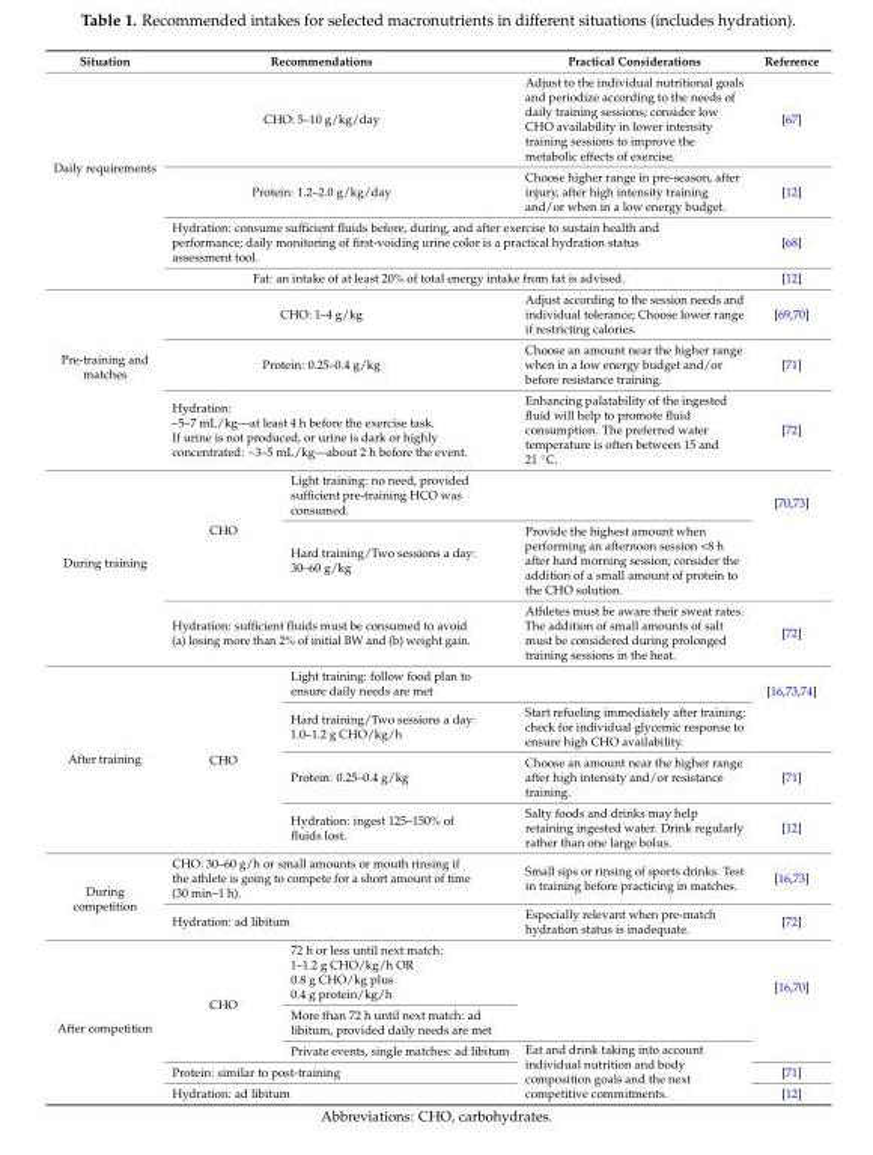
<table><thead><tr><td>Situation</td><td colspan="2">Recommendations</td><td>Practical Considerations</td><td>Reference</td></tr></thead><tbody><tr><td rowspan="4">Daily requirements</td><td colspan="2">CHO: 5–10 g/kg/day</td><td>Adjust to the individual nutritional goals and periodize according to the needs of daily training sessions; consider low CHO availability in lower intensity training sessions to improve the metabolic effects of exercise.</td><td>[67]</td></tr><tr><td colspan="2">Protein: 1.2–2.0 g/kg/day</td><td>Choose higher range in pre-season, after injury, after high intensity training and/or when in a low energy budget.</td><td>[12]</td></tr><tr><td colspan="3">Hydration: consume sufficient fluids before, during, and after exercise to sustain health and performance; daily monitoring of first-voiding urine color is a practical hydration status assessment tool.</td><td>[68]</td></tr><tr><td colspan="3">Fat: an intake of at least 20% of total energy intake from fat is advised.</td><td>[12]</td></tr><tr><td rowspan="3">Pre-training and matches</td><td colspan="2">CHO: 1–4 g/kg</td><td>Adjust according to the session needs and individual tolerance; Choose lower range if restricting calories.</td><td>[69,70]</td></tr><tr><td colspan="2">Protein: 0.25–0.4 g/kg</td><td>Choose an amount near the higher range when in a low energy budget and/or before resistance training.</td><td>[71]</td></tr><tr><td colspan="2">Hydration: ~5–7 mL/kg—at least 4 h before the exercise task. If urine is not produced, or urine is dark or highly concentrated: ~3–5 mL/kg—about 2 h before the event.</td><td>Enhancing palatability of the ingested fluid will help to promote fluid consumption. The preferred water temperature is often between 15 and 21 ◦C.</td><td>[72]</td></tr><tr><td rowspan="3">During training</td><td rowspan="2">CHO</td><td>Light training: no need, provided sufficient pre-training HCO was consumed.</td><td></td><td rowspan="2">[70,73]</td></tr><tr><td>Hard training/Two sessions a day: 30–60 g/kg</td><td>Provide the highest amount when performing an afternoon session &lt;8 h after hard morning session; consider the addition of a small amount of protein to the CHO solution.</td></tr><tr><td colspan="2">Hydration: sufficient fluids must be consumed to avoid (a) losing more than 2% of initial BW and (b) weight gain.</td><td>Athletes must be aware their sweat rates. The addition of small amounts of salt must be considered during prolonged training sessions in the heat.</td><td>[72]</td></tr><tr><td rowspan="4">After training</td><td rowspan="4">CHO</td><td>Light training: follow food plan to ensure daily needs are met</td><td></td><td rowspan="2">[16,73,74]</td></tr><tr><td>Hard training/Two sessions a day: 1.0–1.2 g CHO/kg/h</td><td>Start refueling immediately after training; check for individual glycemic response to ensure high CHO availability.</td></tr><tr><td>Protein: 0.25–0.4 g/kg</td><td>Choose an amount near the higher range after high intensity and/or resistance training.</td><td>[71]</td></tr><tr><td>Hydration: ingest 125–150% of fluids lost.</td><td>Salty foods and drinks may help retaining ingested water. Drink regularly rather than one large bolus.</td><td>[12]</td></tr><tr><td rowspan="2">During competition</td><td colspan="2">CHO: 30–60 g/h or small amounts or mouth rinsing if the athlete is going to compete for a short amount of time (30 min–1 h).</td><td>Small sips or rinsing of sports drinks. Test in training before practicing in matches.</td><td>[16,73]</td></tr><tr><td colspan="2">Hydration: ad libitum</td><td>Especially relevant when pre-match hydration status is inadequate.</td><td>[72]</td></tr><tr><td rowspan="5">After competition</td><td rowspan="3">CHO</td><td>72 h or less until next match: 1–1.2 g CHO/kg/h OR 0.8 g CHO/kg plus 0.4 g protein/kg/h</td><td rowspan="2"></td><td rowspan="3">[16,70]</td></tr><tr><td>More than 72 h until next match: ad libitum, provided daily needs are met</td></tr><tr><td>Private events, single matches: ad libitum</td><td rowspan="3">Eat and drink taking into account individual nutrition and body composition goals and the next competitive commitments.</td></tr><tr><td colspan="2">Protein: similar to post-training</td><td>[71]</td></tr><tr><td colspan="2">Hydration: ad libitum</td><td>[12]</td></tr></tbody></table>